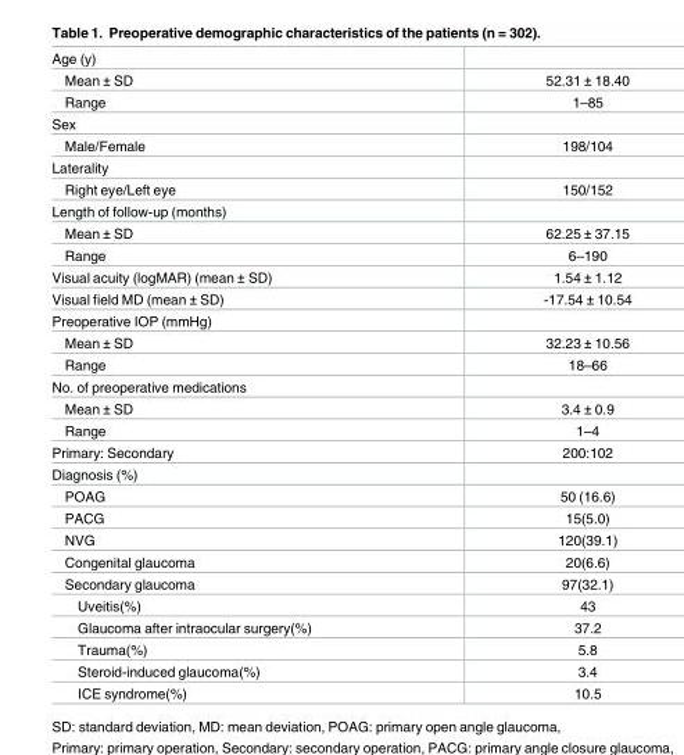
<table><tbody><tr><td colspan="2">Age (y)</td></tr><tr><td>Mean ± SD</td><td>52.31 ± 18.40</td></tr><tr><td>Range</td><td>1–85</td></tr><tr><td colspan="2">Sex</td></tr><tr><td>Male/Female</td><td>198/104</td></tr><tr><td colspan="2">Laterality</td></tr><tr><td>Right eye/Left eye</td><td>150/152</td></tr><tr><td colspan="2">Length of follow-up (months)</td></tr><tr><td>Mean ± SD</td><td>62.25 ± 37.15</td></tr><tr><td>Range</td><td>6–190</td></tr><tr><td>Visual acuity (logMAR) (mean ± SD)</td><td>1.54 ± 1.12</td></tr><tr><td>Visual field MD (mean ± SD)</td><td>-17.54 ± 10.54</td></tr><tr><td colspan="2">Preoperative IOP (mmHg)</td></tr><tr><td>Mean ± SD</td><td>32.23 ± 10.56</td></tr><tr><td>Range</td><td>18–66</td></tr><tr><td colspan="2">No. of preoperative medications</td></tr><tr><td>Mean ± SD</td><td>3.4 ± 0.9</td></tr><tr><td>Range</td><td>1–4</td></tr><tr><td>Primary: Secondary</td><td>200:102</td></tr><tr><td colspan="2">Diagnosis (%)</td></tr><tr><td>POAG</td><td>50 (16.6)</td></tr><tr><td>PACG</td><td>15(5.0)</td></tr><tr><td>NVG</td><td>120(39.1)</td></tr><tr><td>Congenital glaucoma</td><td>20(6.6)</td></tr><tr><td>Secondary glaucoma</td><td>97(32.1)</td></tr><tr><td>Uveitis(%)</td><td>43</td></tr><tr><td>Glaucoma after intraocular surgery(%)</td><td>37.2</td></tr><tr><td>Trauma(%)</td><td>5.8</td></tr><tr><td>Steroid-induced glaucoma(%)</td><td>3.4</td></tr><tr><td>ICE syndrome(%)</td><td>10.5</td></tr></tbody></table>